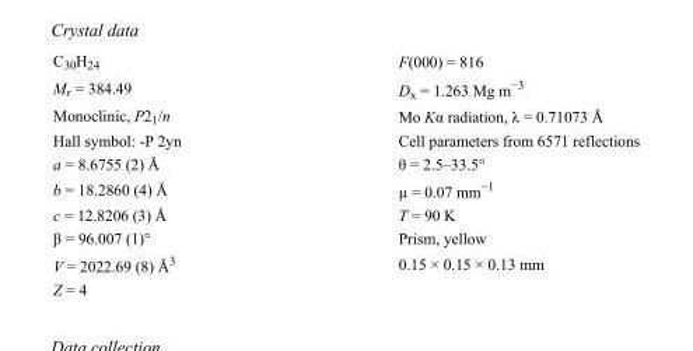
<table><tbody><tr><td>C<sub>30</sub>H<sub>24</sub></td><td>F(000) = 816</td></tr><tr><td>M<sub>r</sub> = 384.49</td><td>D<sub>x</sub> = 1.263 Mg m<sup>−3</sup></td></tr><tr><td>Monoclinic, P2<sub>1</sub>/n</td><td>Mo Kα radiation, λ = 0.71073 Å</td></tr><tr><td>Hall symbol: -P 2yn</td><td>Cell parameters from 6571 reflections</td></tr><tr><td>a = 8.6755 (2) Å</td><td>θ = 2.5–33.5°</td></tr><tr><td>b = 18.2860 (4) Å</td><td>µ = 0.07 mm<sup>−1</sup></td></tr><tr><td>c = 12.8206 (3) Å</td><td>T = 90 K</td></tr><tr><td>β = 96.007 (1)°</td><td>Prism, yellow</td></tr><tr><td>V = 2022.69 (8) Å<sup>3</sup></td><td>0.15 × 0.15 × 0.13 mm</td></tr><tr><td>Z = 4</td><td></td></tr></tbody></table>